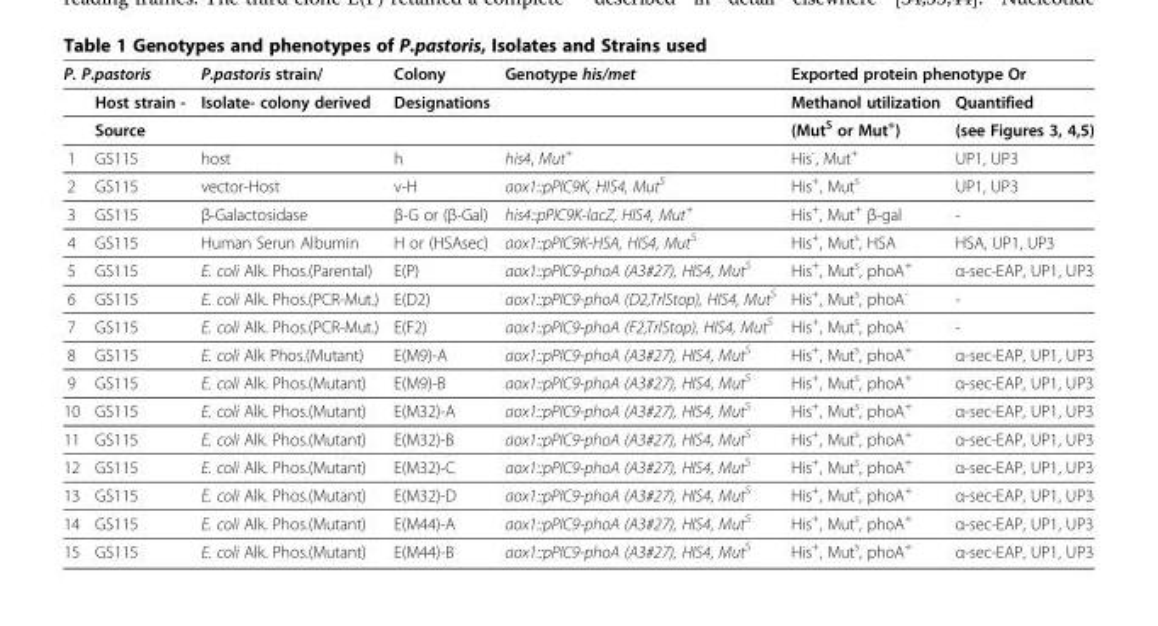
<table><thead><tr><td colspan="2">P. P.pastoris</td><td rowspan="2">P.pastoris strain/ Isolate- colony derived</td><td rowspan="2">Colony Designations</td><td rowspan="2">Genotype his/met</td><td colspan="2">Exported protein phenotype Or</td></tr><tr><td></td><td>Host strain -</td><td>Methanol utilization</td><td>Quantified</td></tr></thead><tbody><tr><td></td><td>Source</td><td></td><td></td><td></td><td>(Mut<sup>S</sup> or Mut<sup>+</sup>)</td><td>(see Figures 3, 4,5)</td></tr><tr><td>1</td><td>GS115</td><td>host</td><td>h</td><td>his4, Mut<sup>+</sup></td><td>His<sup>-</sup>, Mut<sup>+</sup></td><td>UP1, UP3</td></tr><tr><td>2</td><td>GS115</td><td>vector-Host</td><td>v-H</td><td>aox1::pPIC9K, HIS4, Mut<sup>S</sup></td><td>His<sup>+</sup>, Mut<sup>s</sup></td><td>UP1, UP3</td></tr><tr><td>3</td><td>GS115</td><td>β-Galactosidase</td><td>β-G or (β-Gal)</td><td>his4::pPIC9K-lacZ, HIS4, Mut<sup>+</sup></td><td>His<sup>+</sup>, Mut<sup>+</sup> β-gal</td><td>-</td></tr><tr><td>4</td><td>GS115</td><td>Human Serun Albumin</td><td>H or (HSAsec)</td><td>aox1::pPIC9K-HSA, HIS4, Mut<sup>S</sup></td><td>His<sup>+</sup>, Mut<sup>s</sup>, HSA</td><td>HSA, UP1, UP3</td></tr><tr><td>5</td><td>GS115</td><td>E. coli Alk. Phos.(Parental)</td><td>E(P)</td><td>aox1::pPIC9-phoA (A3#27), HIS4, Mut<sup>S</sup></td><td>His<sup>+</sup>, Mut<sup>s</sup>, phoA<sup>+</sup></td><td>α-sec-EAP, UP1, UP3</td></tr><tr><td>6</td><td>GS115</td><td>E. coli Alk. Phos.(PCR-Mut.)</td><td>E(D2)</td><td>aox1::pPIC9-phoA (D2,TrlStop), HIS4, Mut<sup>S</sup></td><td>His<sup>+</sup>, Mut<sup>s</sup>, phoA<sup>-</sup></td><td>-</td></tr><tr><td>7</td><td>GS115</td><td>E. coli Alk. Phos.(PCR-Mut.)</td><td>E(F2)</td><td>aox1::pPIC9-phoA (F2,TrlStop), HIS4, Mut<sup>S</sup></td><td>His<sup>+</sup>, Mut<sup>s</sup>, phoA<sup>-</sup></td><td>-</td></tr><tr><td>8</td><td>GS115</td><td>E. coli Alk Phos.(Mutant)</td><td>E(M9)-A</td><td>aox1::pPIC9-phoA (A3#27), HIS4, Mut<sup>S</sup></td><td>His<sup>+</sup>, Mut<sup>s</sup>, phoA<sup>+</sup></td><td>α-sec-EAP, UP1, UP3</td></tr><tr><td>9</td><td>GS115</td><td>E. coli Alk. Phos.(Mutant)</td><td>E(M9)-B</td><td>aox1::pPIC9-phoA (A3#27), HIS4, Mut<sup>S</sup></td><td>His<sup>+</sup>, Mut<sup>s</sup>, phoA<sup>+</sup></td><td>α-sec-EAP, UP1, UP3</td></tr><tr><td>10</td><td>GS115</td><td>E. coli Alk. Phos.(Mutant)</td><td>E(M32)-A</td><td>aox1::pPIC9-phoA (A3#27), HIS4, Mut<sup>S</sup></td><td>His<sup>+</sup>, Mut<sup>s</sup>, phoA<sup>+</sup></td><td>α-sec-EAP, UP1, UP3</td></tr><tr><td>11</td><td>GS115</td><td>E. coli Alk. Phos.(Mutant)</td><td>E(M32)-B</td><td>aox1::pPIC9-phoA (A3#27), HIS4, Mut<sup>S</sup></td><td>His<sup>+</sup>, Mut<sup>s</sup>, phoA<sup>+</sup></td><td>α-sec-EAP, UP1, UP3</td></tr><tr><td>12</td><td>GS115</td><td>E. coli Alk. Phos.(Mutant)</td><td>E(M32)-C</td><td>aox1::pPIC9-phoA (A3#27), HIS4, Mut<sup>S</sup></td><td>His<sup>+</sup>, Mut<sup>s</sup>, phoA<sup>+</sup></td><td>α-sec-EAP, UP1, UP3</td></tr><tr><td>13</td><td>GS115</td><td>E. coli Alk. Phos.(Mutant)</td><td>E(M32)-D</td><td>aox1::pPIC9-phoA (A3#27), HIS4, Mut<sup>S</sup></td><td>His<sup>+</sup>, Mut<sup>s</sup>, phoA<sup>+</sup></td><td>α-sec-EAP, UP1, UP3</td></tr><tr><td>14</td><td>GS115</td><td>E. coli Alk. Phos.(Mutant)</td><td>E(M44)-A</td><td>aox1::pPIC9-phoA (A3#27), HIS4, Mut<sup>S</sup></td><td>His<sup>+</sup>, Mut<sup>s</sup>, phoA<sup>+</sup></td><td>α-sec-EAP, UP1, UP3</td></tr><tr><td>15</td><td>GS115</td><td>E. coli Alk. Phos.(Mutant)</td><td>E(M44)-B</td><td>aox1::pPIC9-phoA (A3#27), HIS4, Mut<sup>S</sup></td><td>His<sup>+</sup>, Mut<sup>s</sup>, phoA<sup>+</sup></td><td>α-sec-EAP, UP1, UP3</td></tr></tbody></table>